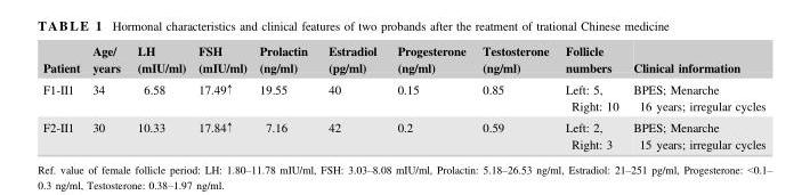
<table><thead><tr><td>Patient</td><td>Age/ years</td><td>LH (mIU/ml)</td><td>FSH (mIU/ml)</td><td>Prolactin (ng/ml)</td><td>Estradiol (pg/ml)</td><td>Progesterone (ng/ml)</td><td>Testosterone (ng/ml)</td><td>Follicle numbers</td><td>Clinical information</td></tr></thead><tbody><tr><td>F1-II1</td><td>34</td><td>6.58</td><td>17.49↑</td><td>19.55</td><td>40</td><td>0.15</td><td>0.85</td><td>Left: 5, Right: 10</td><td>BPES; Menarche 16 years; irregular cycles</td></tr><tr><td>F2-II1</td><td>30</td><td>10.33</td><td>17.84↑</td><td>7.16</td><td>42</td><td>0.2</td><td>0.59</td><td>Left: 2, Right: 3</td><td>BPES; Menarche 15 years; irregular cycles</td></tr></tbody></table>